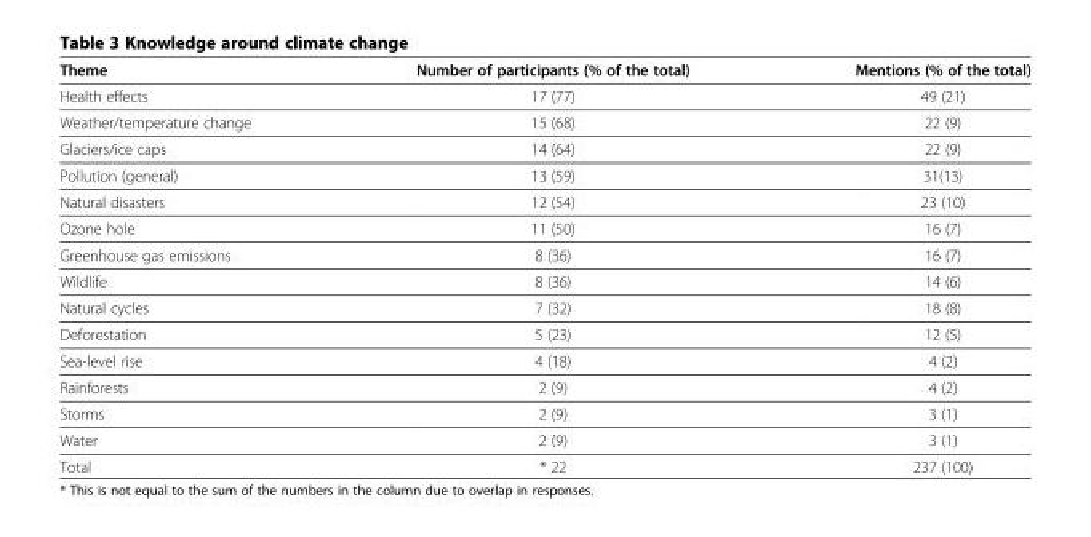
<table><thead><tr><td>Theme</td><td>Number of participants (% of the total)</td><td>Mentions (% of the total)</td></tr></thead><tbody><tr><td>Health effects</td><td>17 (77)</td><td>49 (21)</td></tr><tr><td>Weather/temperature change</td><td>15 (68)</td><td>22 (9)</td></tr><tr><td>Glaciers/ice caps</td><td>14 (64)</td><td>22 (9)</td></tr><tr><td>Pollution (general)</td><td>13 (59)</td><td>31(13)</td></tr><tr><td>Natural disasters</td><td>12 (54)</td><td>23 (10)</td></tr><tr><td>Ozone hole</td><td>11 (50)</td><td>16 (7)</td></tr><tr><td>Greenhouse gas emissions</td><td>8 (36)</td><td>16 (7)</td></tr><tr><td>Wildlife</td><td>8 (36)</td><td>14 (6)</td></tr><tr><td>Natural cycles</td><td>7 (32)</td><td>18 (8)</td></tr><tr><td>Deforestation</td><td>5 (23)</td><td>12 (5)</td></tr><tr><td>Sea-level rise</td><td>4 (18)</td><td>4 (2)</td></tr><tr><td>Rainforests</td><td>2 (9)</td><td>4 (2)</td></tr><tr><td>Storms</td><td>2 (9)</td><td>3 (1)</td></tr><tr><td>Water</td><td>2 (9)</td><td>3 (1)</td></tr><tr><td>Total</td><td>* 22</td><td>237 (100)</td></tr></tbody></table>